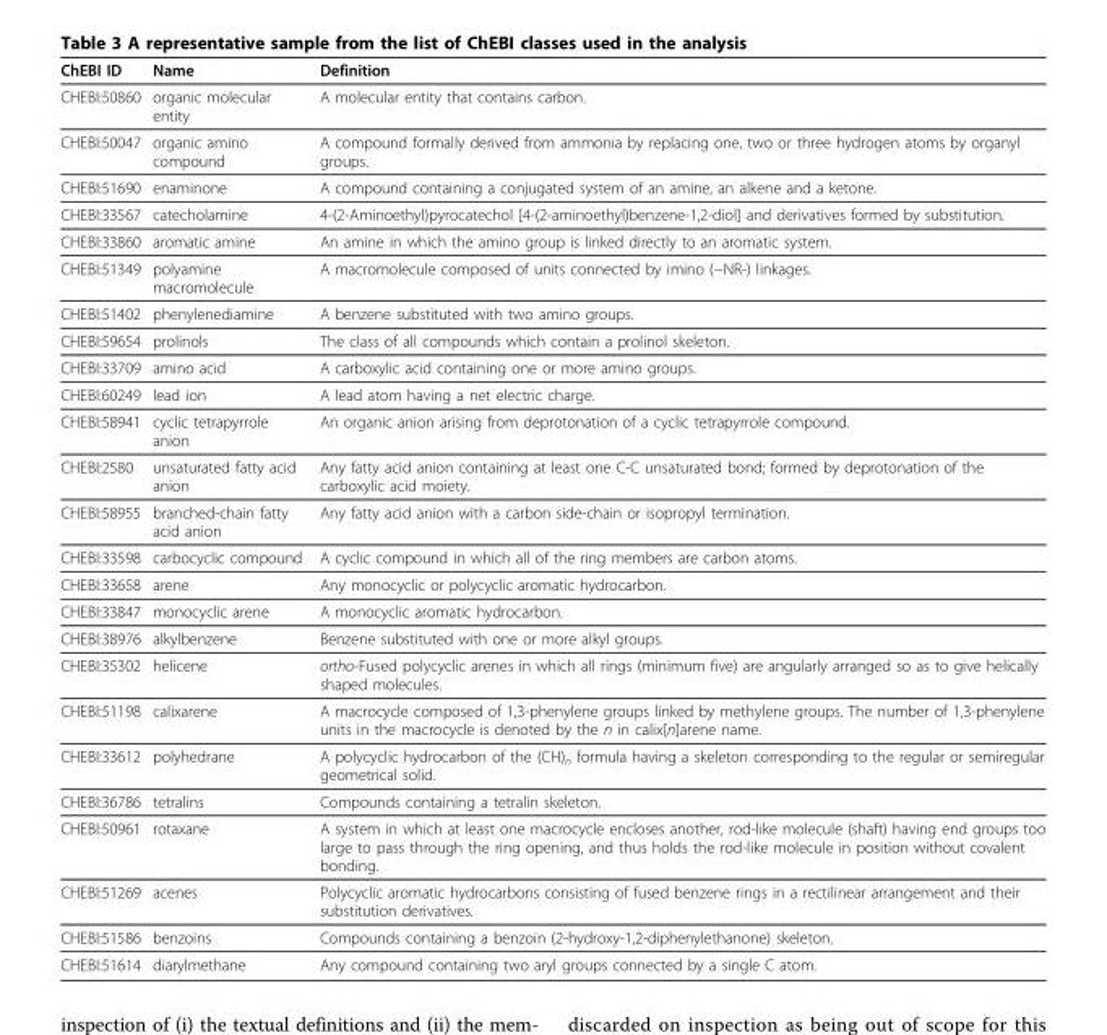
<table><thead><tr><td>ChEBI ID</td><td>Name</td><td>Definition</td></tr></thead><tbody><tr><td>CHEBI:50860</td><td>organic molecular entity</td><td>A molecular entity that contains carbon.</td></tr><tr><td>CHEBI:50047</td><td>organic amino compound</td><td>A compound formally derived from ammonia by replacing one, two or three hydrogen atoms by organyl groups.</td></tr><tr><td>CHEBI:51690</td><td>enaminone</td><td>A compound containing a conjugated system of an amine, an alkene and a ketone.</td></tr><tr><td>CHEBI:33567</td><td>catecholamine</td><td>4-(2-Aminoethyl)pyrocatechol [4-(2-aminoethyl)benzene-1,2-diol] and derivatives formed by substitution.</td></tr><tr><td>CHEBI:33860</td><td>aromatic amine</td><td>An amine in which the amino group is linked directly to an aromatic system.</td></tr><tr><td>CHEBI:51349</td><td>polyamine macromolecule</td><td>A macromolecule composed of units connected by imino (−NR-) linkages.</td></tr><tr><td>CHEBI:51402</td><td>phenylenediamine</td><td>A benzene substituted with two amino groups.</td></tr><tr><td>CHEBI:59654</td><td>prolinols</td><td>The class of all compounds which contain a prolinol skeleton.</td></tr><tr><td>CHEBI:33709</td><td>amino acid</td><td>A carboxylic acid containing one or more amino groups.</td></tr><tr><td>CHEBI:60249</td><td>lead ion</td><td>A lead atom having a net electric charge.</td></tr><tr><td>CHEBI:58941</td><td>cyclic tetrapyrrole anion</td><td>An organic anion arising from deprotonation of a cyclic tetrapyrrole compound.</td></tr><tr><td>CHEBI:2580</td><td>unsaturated fatty acid anion</td><td>Any fatty acid anion containing at least one C-C unsaturated bond; formed by deprotonation of the carboxylic acid moiety.</td></tr><tr><td>CHEBI:58955</td><td>branched-chain fatty acid anion</td><td>Any fatty acid anion with a carbon side-chain or isopropyl termination.</td></tr><tr><td>CHEBI:33598</td><td>carbocyclic compound</td><td>A cyclic compound in which all of the ring members are carbon atoms.</td></tr><tr><td>CHEBI:33658</td><td>arene</td><td>Any monocyclic or polycyclic aromatic hydrocarbon.</td></tr><tr><td>CHEBI:33847</td><td>monocyclic arene</td><td>A monocyclic aromatic hydrocarbon.</td></tr><tr><td>CHEBI:38976</td><td>alkylbenzene</td><td>Benzene substituted with one or more alkyl groups.</td></tr><tr><td>CHEBI:35302</td><td>helicene</td><td>ortho-Fused polycyclic arenes in which all rings (minimum five) are angularly arranged so as to give helically shaped molecules.</td></tr><tr><td>CHEBI:51198</td><td>calixarene</td><td>A macrocycle composed of 1,3-phenylene groups linked by methylene groups. The number of 1,3-phenylene units in the macrocycle is denoted by the n in calix[n]arene name.</td></tr><tr><td>CHEBI:33612</td><td>polyhedrane</td><td>A polycyclic hydrocarbon of the (CH)<sub>n</sub> formula having a skeleton corresponding to the regular or semiregular geometrical solid.</td></tr><tr><td>CHEBI:36786</td><td>tetralins</td><td>Compounds containing a tetralin skeleton.</td></tr><tr><td>CHEBI:50961</td><td>rotaxane</td><td>A system in which at least one macrocycle encloses another, rod-like molecule (shaft) having end groups too large to pass through the ring opening, and thus holds the rod-like molecule in position without covalent bonding.</td></tr><tr><td>CHEBI:51269</td><td>acenes</td><td>Polycyclic aromatic hydrocarbons consisting of fused benzene rings in a rectilinear arrangement and their substitution derivatives.</td></tr><tr><td>CHEBI:51586</td><td>benzoins</td><td>Compounds containing a benzoin (2-hydroxy-1,2-diphenylethanone) skeleton.</td></tr><tr><td>CHEBI:51614</td><td>diarylmethane</td><td>Any compound containing two aryl groups connected by a single C atom.</td></tr></tbody></table>